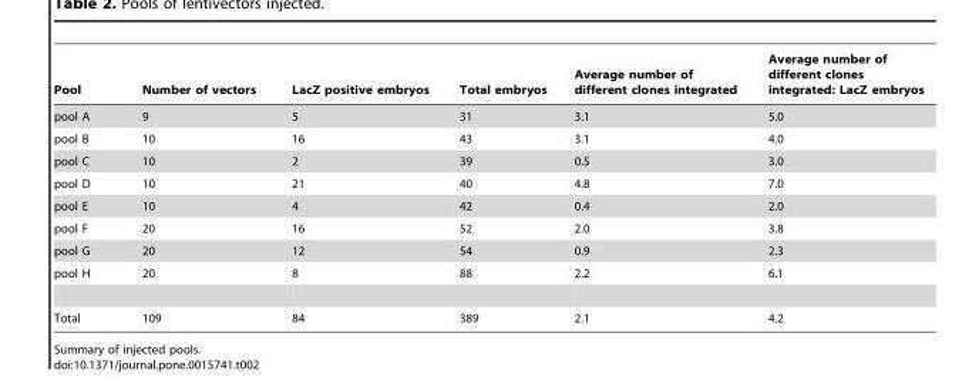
<table><thead><tr><td>Pool</td><td>Number of vectors</td><td>LacZ positive embryos</td><td>Total embryos</td><td>Average number of different clones integrated</td><td>Average number of different clones integrated: LacZ embryos</td></tr></thead><tbody><tr><td>pool A</td><td>9</td><td>5</td><td>31</td><td>3.1</td><td>5.0</td></tr><tr><td>pool B</td><td>10</td><td>16</td><td>43</td><td>3.1</td><td>4.0</td></tr><tr><td>pool C</td><td>10</td><td>2</td><td>39</td><td>0.5</td><td>3.0</td></tr><tr><td>pool D</td><td>10</td><td>21</td><td>40</td><td>4.8</td><td>7.0</td></tr><tr><td>pool E</td><td>10</td><td>4</td><td>42</td><td>0.4</td><td>2.0</td></tr><tr><td>pool F</td><td>20</td><td>16</td><td>52</td><td>2.0</td><td>3.8</td></tr><tr><td>pool G</td><td>20</td><td>12</td><td>54</td><td>0.9</td><td>2.3</td></tr><tr><td>pool H</td><td>20</td><td>8</td><td>88</td><td>2.2</td><td>6.1</td></tr><tr><td>Total</td><td>109</td><td>84</td><td>389</td><td>2.1</td><td>4.2</td></tr></tbody></table>